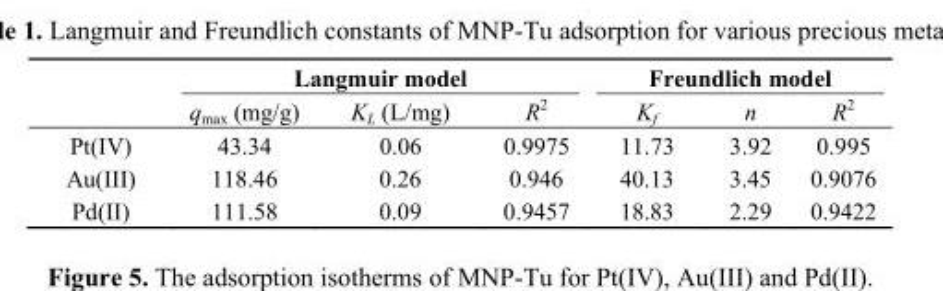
<table><thead><tr><td rowspan="2"></td><td colspan="3">Langmuir model</td><td colspan="3">Freundlich model</td></tr><tr><td>q<sub>max</sub> (mg/g)</td><td>K<sub>L</sub> (L/mg)</td><td>R<sup>2</sup></td><td>K<sub>f</sub></td><td>n</td><td>R<sup>2</sup></td></tr></thead><tbody><tr><td>Pt(IV)</td><td>43.34</td><td>0.06</td><td>0.9975</td><td>11.73</td><td>3.92</td><td>0.995</td></tr><tr><td>Au(III)</td><td>118.46</td><td>0.26</td><td>0.946</td><td>40.13</td><td>3.45</td><td>0.9076</td></tr><tr><td>Pd(II)</td><td>111.58</td><td>0.09</td><td>0.9457</td><td>18.83</td><td>2.29</td><td>0.9422</td></tr></tbody></table>